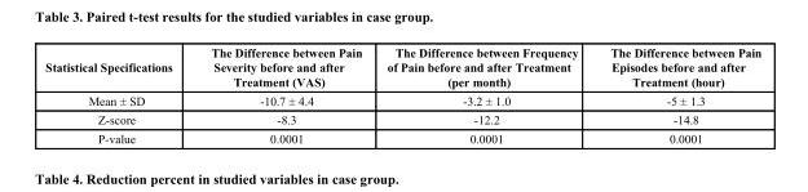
<table><thead><tr><td>Statistical Specifications</td><td>The Difference between Pain Severity before and after Treatment (VAS)</td><td>The Difference between Frequency of Pain before and after Treatment (per month)</td><td>The Difference between Pain Episodes before and after Treatment (hour)</td></tr></thead><tbody><tr><td>Mean ± SD</td><td>-10.7 ± 4.4</td><td>-3.2 ± 1.0</td><td>-5 ± 1.3</td></tr><tr><td>Z-score</td><td>-8.3</td><td>-12.2</td><td>-14.8</td></tr><tr><td>P-value</td><td>0.0001</td><td>0.0001</td><td>0.0001</td></tr></tbody></table>